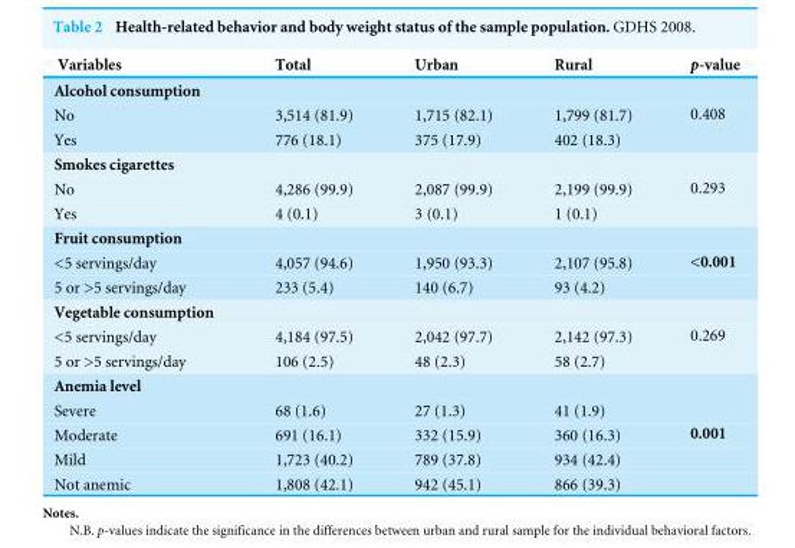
<table><thead><tr><td>Variables</td><td>Total</td><td>Urban</td><td>Rural</td><td>p-value</td></tr></thead><tbody><tr><td colspan="4">Alcohol consumption</td><td rowspan="3">0.408</td></tr><tr><td>No</td><td>3,514 (81.9)</td><td>1,715 (82.1)</td><td>1,799 (81.7)</td></tr><tr><td>Yes</td><td>776 (18.1)</td><td>375 (17.9)</td><td>402 (18.3)</td></tr><tr><td colspan="4">Smokes cigarettes</td><td rowspan="3">0.293</td></tr><tr><td>No</td><td>4,286 (99.9)</td><td>2,087 (99.9)</td><td>2,199 (99.9)</td></tr><tr><td>Yes</td><td>4 (0.1)</td><td>3 (0.1)</td><td>1 (0.1)</td></tr><tr><td colspan="4">Fruit consumption</td><td rowspan="3">&lt;0.001</td></tr><tr><td>&lt;5 servings/day</td><td>4,057 (94.6)</td><td>1,950 (93.3)</td><td>2,107 (95.8)</td></tr><tr><td>5 or &gt;5 servings/day</td><td>233 (5.4)</td><td>140 (6.7)</td><td>93 (4.2)</td></tr><tr><td colspan="4">Vegetable consumption</td><td rowspan="3">0.269</td></tr><tr><td>&lt;5 servings/day</td><td>4,184 (97.5)</td><td>2,042 (97.7)</td><td>2,142 (97.3)</td></tr><tr><td>5 or &gt;5 servings/day</td><td>106 (2.5)</td><td>48 (2.3)</td><td>58 (2.7)</td></tr><tr><td colspan="4">Anemia level</td><td rowspan="5">0.001</td></tr><tr><td>Severe</td><td>68 (1.6)</td><td>27 (1.3)</td><td>41 (1.9)</td></tr><tr><td>Moderate</td><td>691 (16.1)</td><td>332 (15.9)</td><td>360 (16.3)</td></tr><tr><td>Mild</td><td>1,723 (40.2)</td><td>789 (37.8)</td><td>934 (42.4)</td></tr><tr><td>Not anemic</td><td>1,808 (42.1)</td><td>942 (45.1)</td><td>866 (39.3)</td></tr></tbody></table>